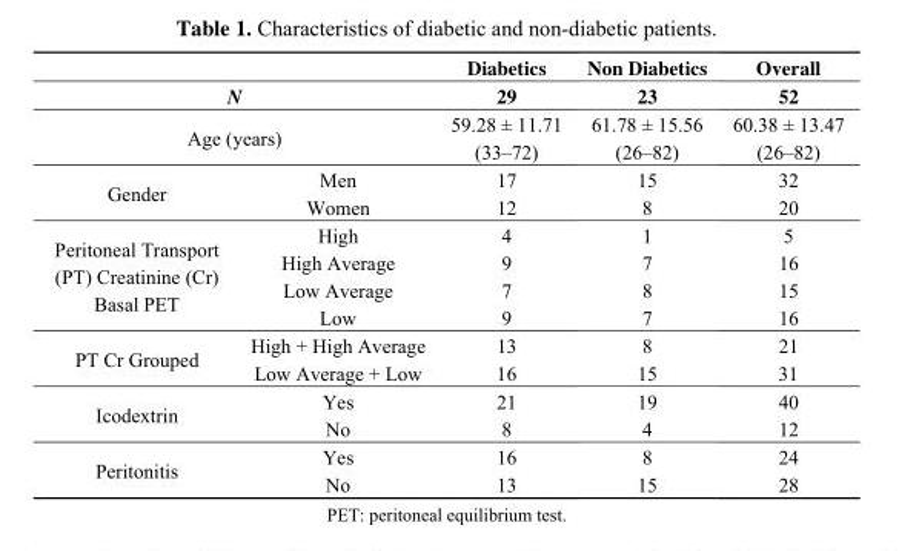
<table><thead><tr><td></td><td></td><td rowspan="2">Diabetics 29</td><td rowspan="2">Non Diabetics 23</td><td rowspan="2">Overall 52</td></tr><tr><td colspan="2">N</td></tr></thead><tbody><tr><td colspan="2">Age (years)</td><td>59.28 ± 11.71 (33–72)</td><td>61.78 ± 15.56 (26–82)</td><td>60.38 ± 13.47 (26–82)</td></tr><tr><td rowspan="2">Gender</td><td>Men</td><td>17</td><td>15</td><td>32</td></tr><tr><td>Women</td><td>12</td><td>8</td><td>20</td></tr><tr><td rowspan="4">Peritoneal Transport (PT) Creatinine (Cr) Basal PET</td><td>High</td><td>4</td><td>1</td><td>5</td></tr><tr><td>High Average</td><td>9</td><td>7</td><td>16</td></tr><tr><td>Low Average</td><td>7</td><td>8</td><td>15</td></tr><tr><td>Low</td><td>9</td><td>7</td><td>16</td></tr><tr><td rowspan="2">PT Cr Grouped</td><td>High + High Average</td><td>13</td><td>8</td><td>21</td></tr><tr><td>Low Average + Low</td><td>16</td><td>15</td><td>31</td></tr><tr><td rowspan="2">Icodextrin</td><td>Yes</td><td>21</td><td>19</td><td>40</td></tr><tr><td>No</td><td>8</td><td>4</td><td>12</td></tr><tr><td rowspan="2">Peritonitis</td><td>Yes</td><td>16</td><td>8</td><td>24</td></tr><tr><td>No</td><td>13</td><td>15</td><td>28</td></tr></tbody></table>